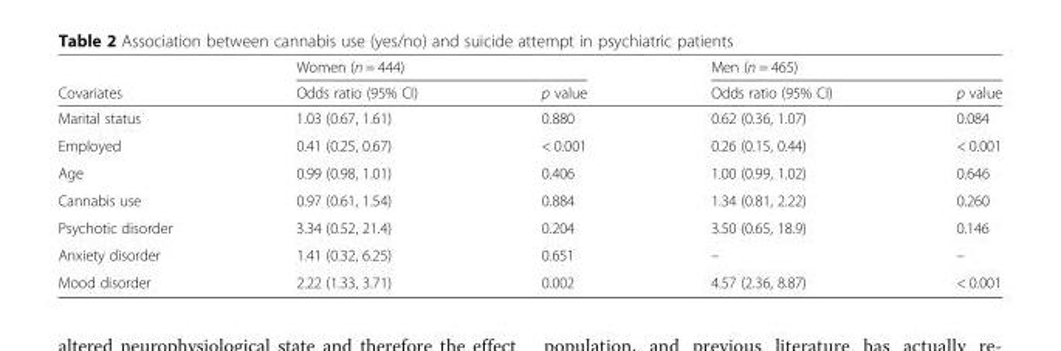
<table><thead><tr><td rowspan="2">Covariates</td><td colspan="2">Women (n = 444)</td><td colspan="2">Men (n = 465)</td></tr><tr><td>Odds ratio (95% CI)</td><td>p value</td><td>Odds ratio (95% CI)</td><td>p value</td></tr></thead><tbody><tr><td>Marital status</td><td>1.03 (0.67, 1.61)</td><td>0.880</td><td>0.62 (0.36, 1.07)</td><td>0.084</td></tr><tr><td>Employed</td><td>0.41 (0.25, 0.67)</td><td>&lt; 0.001</td><td>0.26 (0.15, 0.44)</td><td>&lt; 0.001</td></tr><tr><td>Age</td><td>0.99 (0.98, 1.01)</td><td>0.406</td><td>1.00 (0.99, 1.02)</td><td>0.646</td></tr><tr><td>Cannabis use</td><td>0.97 (0.61, 1.54)</td><td>0.884</td><td>1.34 (0.81, 2.22)</td><td>0.260</td></tr><tr><td>Psychotic disorder</td><td>3.34 (0.52, 21.4)</td><td>0.204</td><td>3.50 (0.65, 18.9)</td><td>0.146</td></tr><tr><td>Anxiety disorder</td><td>1.41 (0.32, 6.25)</td><td>0.651</td><td>–</td><td>–</td></tr><tr><td>Mood disorder</td><td>2.22 (1.33, 3.71)</td><td>0.002</td><td>4.57 (2.36, 8.87)</td><td>&lt; 0.001</td></tr></tbody></table>